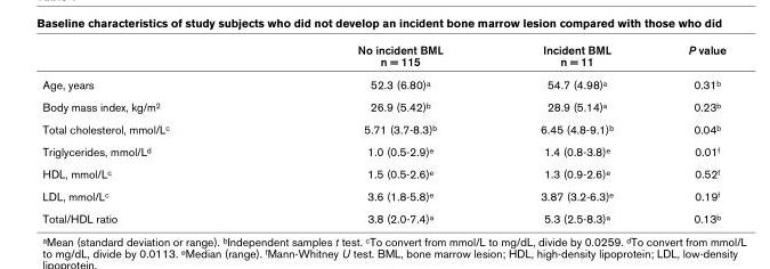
<table><thead><tr><td></td><td>No incident BML n = 115</td><td>Incident BML n = 11</td><td>P value</td></tr></thead><tbody><tr><td>Age, years</td><td>52.3 (6.80)<sup>a</sup></td><td>54.7 (4.98)<sup>a</sup></td><td>0.31<sup>b</sup></td></tr><tr><td>Body mass index, kg/m<sup>2</sup></td><td>26.9 (5.42)<sup>b</sup></td><td>28.9 (5.14)<sup>a</sup></td><td>0.23<sup>b</sup></td></tr><tr><td>Total cholesterol, mmol/L<sup>c</sup></td><td>5.71 (3.7-8.3)<sup>b</sup></td><td>6.45 (4.8-9.1)<sup>b</sup></td><td>0.04<sup>b</sup></td></tr><tr><td>Triglycerides, mmol/L<sup>d</sup></td><td>1.0 (0.5-2.9)<sup>e</sup></td><td>1.4 (0.8-3.8)<sup>e</sup></td><td>0.01<sup>f</sup></td></tr><tr><td>HDL, mmol/L<sup>c</sup></td><td>1.5 (0.5-2.6)<sup>e</sup></td><td>1.3 (0.9-2.6)<sup>e</sup></td><td>0.52<sup>f</sup></td></tr><tr><td>LDL, mmol/L<sup>c</sup></td><td>3.6 (1.8-5.8)<sup>e</sup></td><td>3.87 (3.2-6.3)<sup>e</sup></td><td>0.19<sup>f</sup></td></tr><tr><td>Total/HDL ratio</td><td>3.8 (2.0-7.4)<sup>a</sup></td><td>5.3 (2.5-8.3)<sup>a</sup></td><td>0.13<sup>b</sup></td></tr></tbody></table>